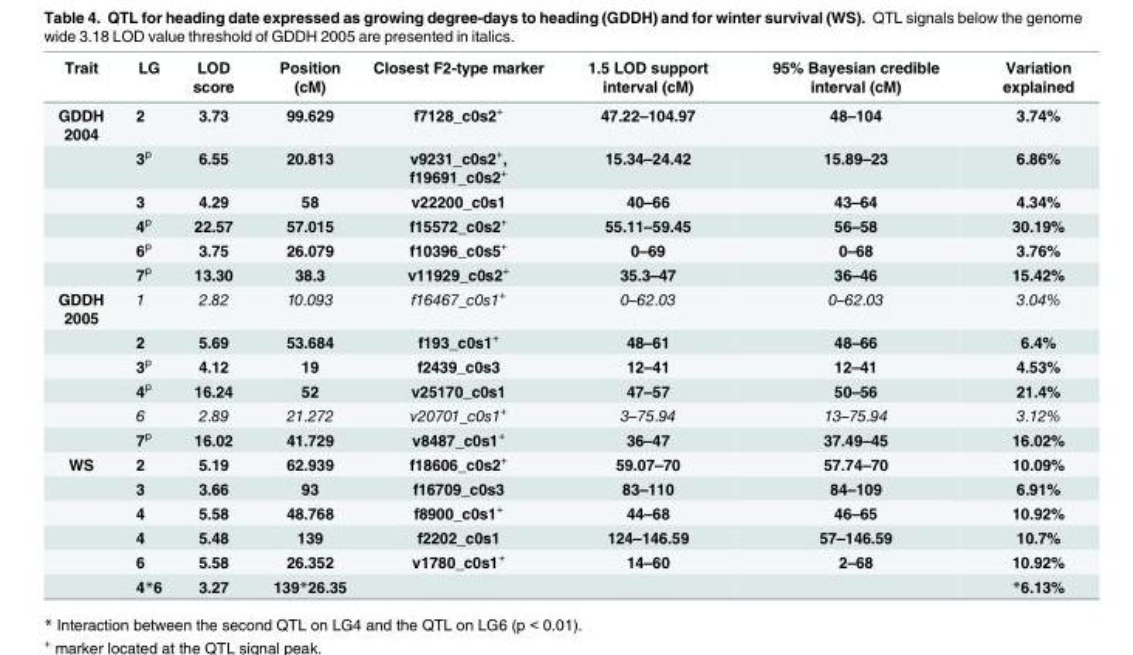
<table><thead><tr><td>Trait</td><td>LG</td><td>LOD score</td><td>Position (cM)</td><td>Closest F2-type marker</td><td>1.5 LOD support interval (cM)</td><td>95% Bayesian credible interval (cM)</td><td>Variation explained</td></tr></thead><tbody><tr><td rowspan="6">GDDH 2004</td><td>2</td><td>3.73</td><td>99.629</td><td>f7128_c0s2<sup>+</sup></td><td>47.22–104.97</td><td>48–104</td><td>3.74%</td></tr><tr><td>3<sup>p</sup></td><td>6.55</td><td>20.813</td><td>v9231_c0s2<sup>+</sup>, f19691_c0s2<sup>+</sup></td><td>15.34–24.42</td><td>15.89–23</td><td>6.86%</td></tr><tr><td>3</td><td>4.29</td><td>58</td><td>v22200_c0s1</td><td>40–66</td><td>43–64</td><td>4.34%</td></tr><tr><td>4<sup>p</sup></td><td>22.57</td><td>57.015</td><td>f15572_c0s2<sup>+</sup></td><td>55.11–59.45</td><td>56–58</td><td>30.19%</td></tr><tr><td>6<sup>p</sup></td><td>3.75</td><td>26.079</td><td>f10396_c0s5<sup>+</sup></td><td>0–69</td><td>0–68</td><td>3.76%</td></tr><tr><td>7<sup>p</sup></td><td>13.30</td><td>38.3</td><td>v11929_c0s2<sup>+</sup></td><td>35.3–47</td><td>36–46</td><td>15.42%</td></tr><tr><td rowspan="6">GDDH 2005</td><td>1</td><td>2.82</td><td>10.093</td><td>f16467_c0s1<sup>+</sup></td><td>0–62.03</td><td>0–62.03</td><td>3.04%</td></tr><tr><td>2</td><td>5.69</td><td>53.684</td><td>f193_c0s1<sup>+</sup></td><td>48–61</td><td>48–66</td><td>6.4%</td></tr><tr><td>3<sup>p</sup></td><td>4.12</td><td>19</td><td>f2439_c0s3</td><td>12–41</td><td>12–41</td><td>4.53%</td></tr><tr><td>4<sup>p</sup></td><td>16.24</td><td>52</td><td>v25170_c0s1</td><td>47–57</td><td>50–56</td><td>21.4%</td></tr><tr><td>6</td><td>2.89</td><td>21.272</td><td>v20701_c0s1<sup>+</sup></td><td>3–75.94</td><td>13–75.94</td><td>3.12%</td></tr><tr><td>7<sup>p</sup></td><td>16.02</td><td>41.729</td><td>v8487_c0s1<sup>+</sup></td><td>36–47</td><td>37.49–45</td><td>16.02%</td></tr><tr><td rowspan="6">WS</td><td>2</td><td>5.19</td><td>62.939</td><td>f18606_c0s2<sup>+</sup></td><td>59.07–70</td><td>57.74–70</td><td>10.09%</td></tr><tr><td>3</td><td>3.66</td><td>93</td><td>f16709_c0s3</td><td>83–110</td><td>84–109</td><td>6.91%</td></tr><tr><td>4</td><td>5.58</td><td>48.768</td><td>f8900_c0s1<sup>+</sup></td><td>44–68</td><td>46–65</td><td>10.92%</td></tr><tr><td>4</td><td>5.48</td><td>139</td><td>f2202_c0s1</td><td>124–146.59</td><td>57–146.59</td><td>10.7%</td></tr><tr><td>6</td><td>5.58</td><td>26.352</td><td>v1780_c0s1<sup>+</sup></td><td>14–60</td><td>2–68</td><td>10.92%</td></tr><tr><td>4*6</td><td>3.27</td><td>139*26.35</td><td></td><td></td><td></td><td>*6.13%</td></tr></tbody></table>